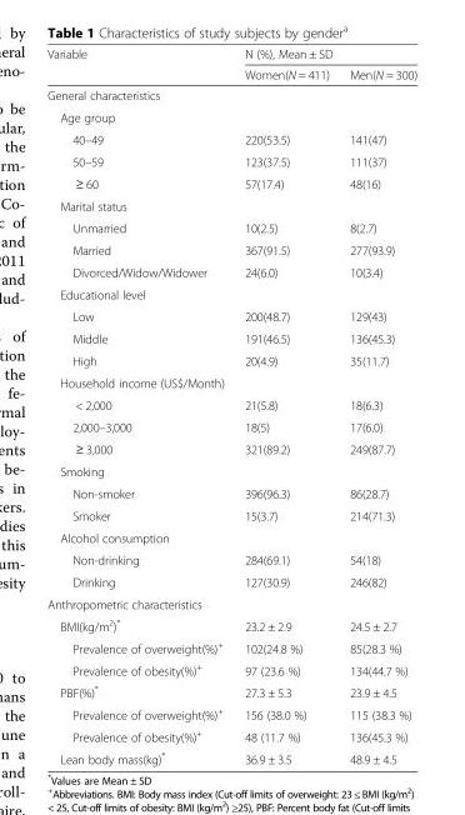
<table><thead><tr><td rowspan="2">Variable</td><td colspan="2">N (%), Mean ± SD</td></tr><tr><td>Women(N = 411)</td><td>Men(N = 300)</td></tr></thead><tbody><tr><td colspan="3">General characteristics</td></tr><tr><td colspan="3">Age group</td></tr><tr><td>40–49</td><td>220(53.5)</td><td>141(47)</td></tr><tr><td>50–59</td><td>123(37.5)</td><td>111(37)</td></tr><tr><td>≥ 60</td><td>57(17.4)</td><td>48(16)</td></tr><tr><td colspan="3">Marital status</td></tr><tr><td>Unmarried</td><td>10(2.5)</td><td>8(2.7)</td></tr><tr><td>Married</td><td>367(91.5)</td><td>277(93.9)</td></tr><tr><td>Divorced/Widow/Widower</td><td>24(6.0)</td><td>10(3.4)</td></tr><tr><td colspan="3">Educational level</td></tr><tr><td>Low</td><td>200(48.7)</td><td>129(43)</td></tr><tr><td>Middle</td><td>191(46.5)</td><td>136(45.3)</td></tr><tr><td>High</td><td>20(4.9)</td><td>35(11.7)</td></tr><tr><td colspan="3">Household income (US$/Month)</td></tr><tr><td>&lt; 2,000</td><td>21(5.8)</td><td>18(6.3)</td></tr><tr><td>2,000–3,000</td><td>18(5)</td><td>17(6.0)</td></tr><tr><td>≥ 3,000</td><td>321(89.2)</td><td>249(87.7)</td></tr><tr><td colspan="3">Smoking</td></tr><tr><td>Non-smoker</td><td>396(96.3)</td><td>86(28.7)</td></tr><tr><td>Smoker</td><td>15(3.7)</td><td>214(71.3)</td></tr><tr><td colspan="3">Alcohol consumption</td></tr><tr><td>Non-drinking</td><td>284(69.1)</td><td>54(18)</td></tr><tr><td>Drinking</td><td>127(30.9)</td><td>246(82)</td></tr><tr><td colspan="3">Anthropometric characteristics</td></tr><tr><td>BMI(kg/m<sup>2</sup>)*</td><td>23.2 ± 2.9</td><td>24.5 ± 2.7</td></tr><tr><td>Prevalence of overweight(%)<sup>+</sup></td><td>102(24.8 %)</td><td>85(28.3 %)</td></tr><tr><td>Prevalence of obesity(%)<sup>+</sup></td><td>97 (23.6 %)</td><td>134(44.7 %)</td></tr><tr><td>PBF(%)*</td><td>27.3 ± 5.3</td><td>23.9 ± 4.5</td></tr><tr><td>Prevalence of overweight(%)<sup>+</sup></td><td>156 (38.0 %)</td><td>115 (38.3 %)</td></tr><tr><td>Prevalence of obesity(%)<sup>+</sup></td><td>48 (11.7 %)</td><td>136(45.3 %)</td></tr><tr><td>Lean body mass(kg)*</td><td>36.9 ± 3.5</td><td>48.9 ± 4.5</td></tr></tbody></table>